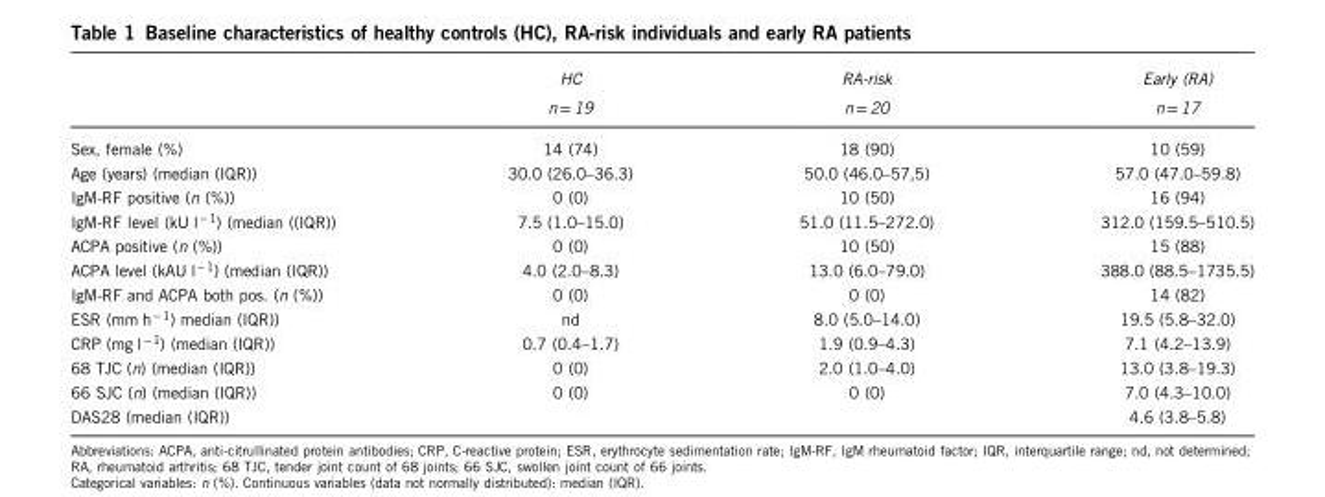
<table><thead><tr><td rowspan="2"></td><td rowspan="2">HC n = 19</td><td rowspan="2">RA-risk n = 20</td><td rowspan="2">Early (RA) n = 17</td></tr><tr></tr></thead><tbody><tr><td>Sex, female (%)</td><td>14 (74)</td><td>18 (90)</td><td>10 (59)</td></tr><tr><td>Age (years) (median (IQR))</td><td>30.0 (26.0–36.3)</td><td>50.0 (46.0–57,5)</td><td>57.0 (47.0–59.8)</td></tr><tr><td>IgM-RF positive (n (%))</td><td>0 (0)</td><td>10 (50)</td><td>16 (94)</td></tr><tr><td>IgM-RF level (kU l <sup>− 1</sup>) (median ((IQR))</td><td>7.5 (1.0–15.0)</td><td>51.0 (11.5–272.0)</td><td>312.0 (159.5–510.5)</td></tr><tr><td>ACPA positive (n (%))</td><td>0 (0)</td><td>10 (50)</td><td>15 (88)</td></tr><tr><td>ACPA level (kAU l<sup>− 1</sup>) (median (IQR))</td><td>4.0 (2.0–8.3)</td><td>13.0 (6.0–79.0)</td><td>388.0 (88.5–1735.5)</td></tr><tr><td>IgM-RF and ACPA both pos. (n (%))</td><td>0 (0)</td><td>0 (0)</td><td>14 (82)</td></tr><tr><td>ESR (mm h <sup>− 1</sup>) median (IQR))</td><td>nd</td><td>8.0 (5.0–14.0)</td><td>19.5 (5.8–32.0)</td></tr><tr><td>CRP (mg l <sup>− 1</sup>) (median (IQR))</td><td>0.7 (0.4–1.7)</td><td>1.9 (0.9–4.3)</td><td>7.1 (4.2–13.9)</td></tr><tr><td>68 TJC (n) (median (IQR))</td><td>0 (0)</td><td>2.0 (1.0–4.0)</td><td>13.0 (3.8–19.3)</td></tr><tr><td>66 SJC (n) (median (IQR))</td><td>0 (0)</td><td>0 (0)</td><td>7.0 (4.3–10.0)</td></tr><tr><td>DAS28 (median (IQR))</td><td></td><td></td><td>4.6 (3.8–5.8)</td></tr></tbody></table>